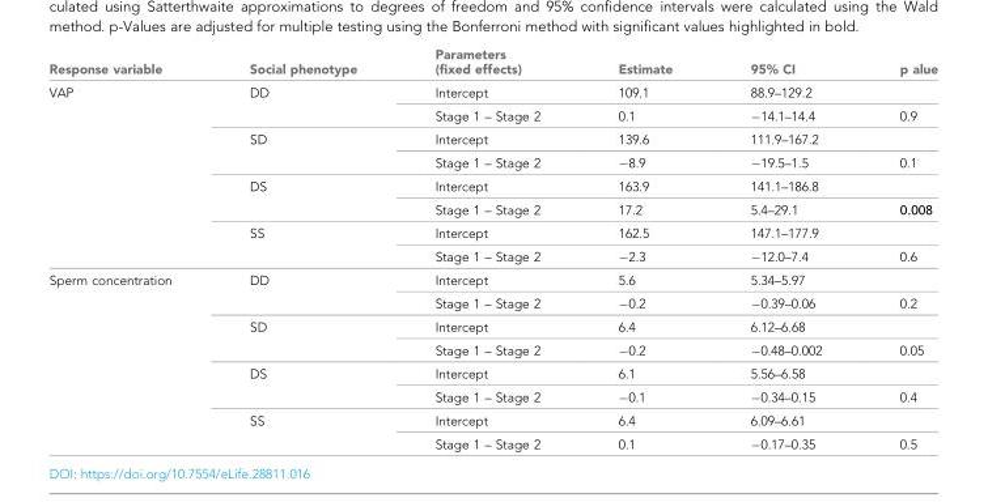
<table><thead><tr><td>Response variable</td><td>Social phenotype</td><td>Parameters (fixed effects)</td><td>Estimate</td><td>95% CI</td><td>p alue</td></tr></thead><tbody><tr><td rowspan="8">VAP</td><td rowspan="2">DD</td><td>Intercept</td><td>109.1</td><td>88.9–129.2</td><td></td></tr><tr><td>Stage 1 – Stage 2</td><td>0.1</td><td>−14.1–14.4</td><td>0.9</td></tr><tr><td rowspan="2">SD</td><td>Intercept</td><td>139.6</td><td>111.9–167.2</td><td></td></tr><tr><td>Stage 1 – Stage 2</td><td>−8.9</td><td>−19.5–1.5</td><td>0.1</td></tr><tr><td rowspan="2">DS</td><td>Intercept</td><td>163.9</td><td>141.1–186.8</td><td></td></tr><tr><td>Stage 1 – Stage 2</td><td>17.2</td><td>5.4–29.1</td><td>0.008</td></tr><tr><td rowspan="2">SS</td><td>Intercept</td><td>162.5</td><td>147.1–177.9</td><td></td></tr><tr><td>Stage 1 – Stage 2</td><td>−2.3</td><td>−12.0–7.4</td><td>0.6</td></tr><tr><td rowspan="8">Sperm concentration</td><td rowspan="2">DD</td><td>Intercept</td><td>5.6</td><td>5.34–5.97</td><td></td></tr><tr><td>Stage 1 – Stage 2</td><td>−0.2</td><td>−0.39–0.06</td><td>0.2</td></tr><tr><td rowspan="2">SD</td><td>Intercept</td><td>6.4</td><td>6.12–6.68</td><td></td></tr><tr><td>Stage 1 – Stage 2</td><td>−0.2</td><td>−0.48–0.002</td><td>0.05</td></tr><tr><td rowspan="2">DS</td><td>Intercept</td><td>6.1</td><td>5.56–6.58</td><td></td></tr><tr><td>Stage 1 – Stage 2</td><td>−0.1</td><td>−0.34–0.15</td><td>0.4</td></tr><tr><td rowspan="2">SS</td><td>Intercept</td><td>6.4</td><td>6.09–6.61</td><td></td></tr><tr><td>Stage 1 – Stage 2</td><td>0.1</td><td>−0.17–0.35</td><td>0.5</td></tr></tbody></table>